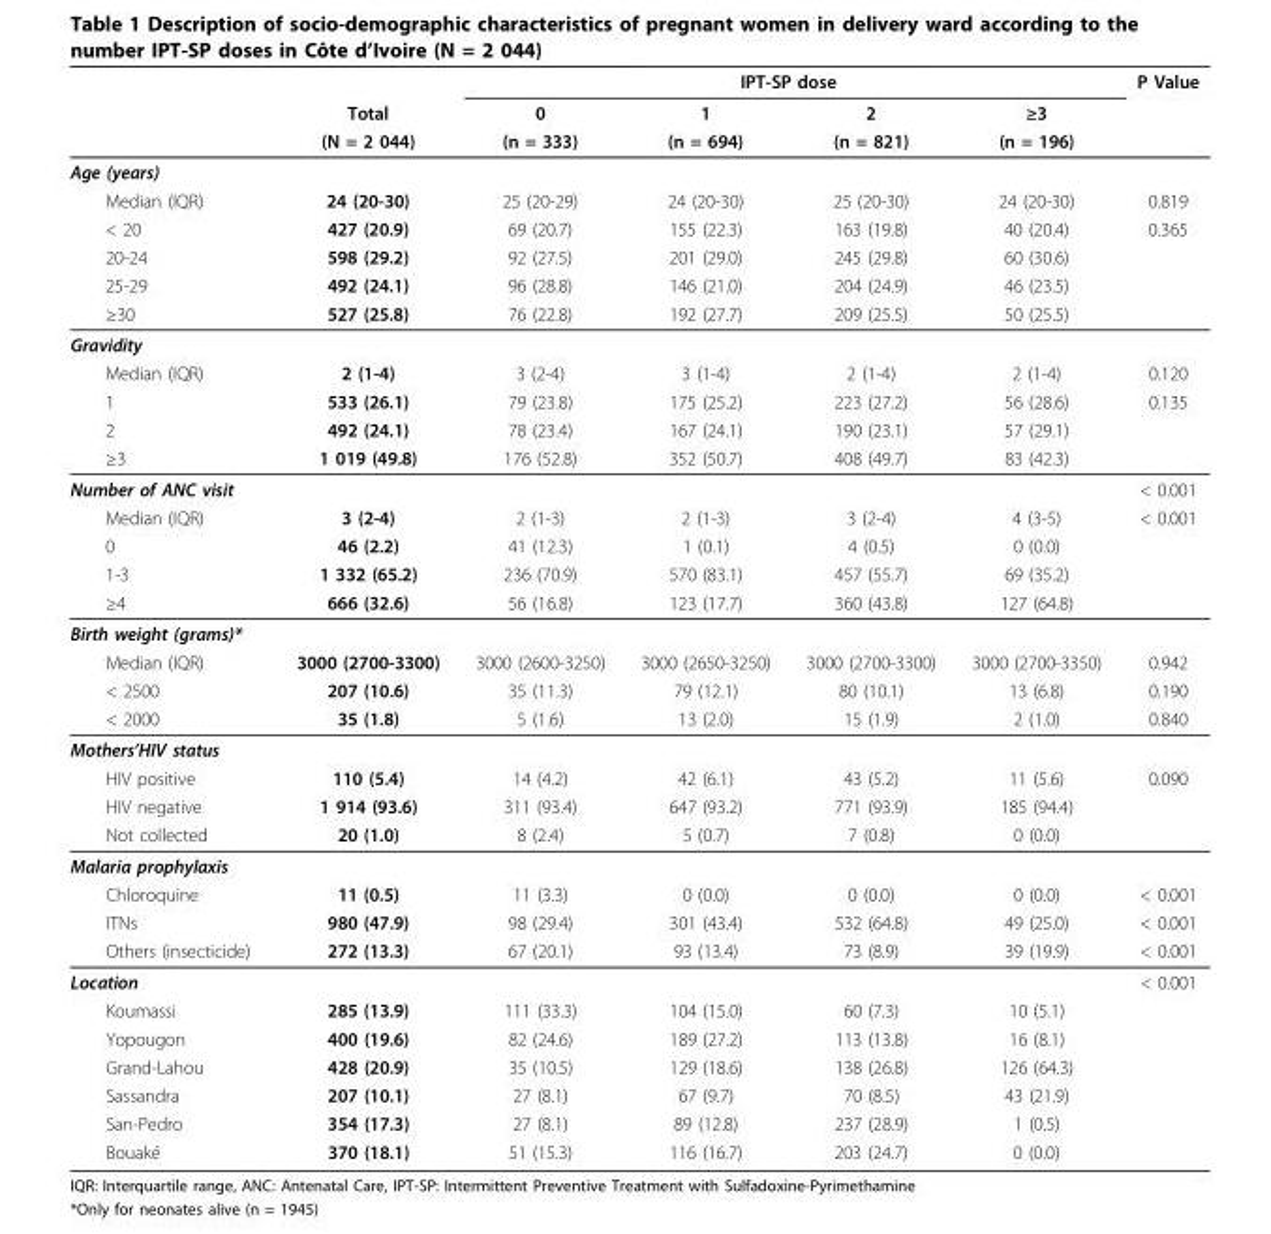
<table><thead><tr><td rowspan="3"></td><td rowspan="3">Total (N = 2 044)</td><td colspan="4">IPT-SP dose</td><td rowspan="3">P Value</td></tr><tr><td rowspan="2">0 (n = 333)</td><td rowspan="2">1 (n = 694)</td><td rowspan="2">2 (n = 821)</td><td rowspan="2">≥3 (n = 196)</td></tr><tr></tr></thead><tbody><tr><td colspan="7">Age (years)</td></tr><tr><td>Median (IQR)</td><td>24 (20-30)</td><td>25 (20-29)</td><td>24 (20-30)</td><td>25 (20-30)</td><td>24 (20-30)</td><td>0.819</td></tr><tr><td>&lt; 20</td><td>427 (20.9)</td><td>69 (20.7)</td><td>155 (22.3)</td><td>163 (19.8)</td><td>40 (20.4)</td><td>0.365</td></tr><tr><td>20-24</td><td>598 (29.2)</td><td>92 (27.5)</td><td>201 (29.0)</td><td>245 (29.8)</td><td>60 (30.6)</td><td></td></tr><tr><td>25-29</td><td>492 (24.1)</td><td>96 (28.8)</td><td>146 (21.0)</td><td>204 (24.9)</td><td>46 (23.5)</td><td></td></tr><tr><td>≥30</td><td>527 (25.8)</td><td>76 (22.8)</td><td>192 (27.7)</td><td>209 (25.5)</td><td>50 (25.5)</td><td></td></tr><tr><td colspan="7">Gravidity</td></tr><tr><td>Median (IQR)</td><td>2 (1-4)</td><td>3 (2-4)</td><td>3 (1-4)</td><td>2 (1-4)</td><td>2 (1-4)</td><td>0.120</td></tr><tr><td>1</td><td>533 (26.1)</td><td>79 (23.8)</td><td>175 (25.2)</td><td>223 (27.2)</td><td>56 (28.6)</td><td>0.135</td></tr><tr><td>2</td><td>492 (24.1)</td><td>78 (23.4)</td><td>167 (24.1)</td><td>190 (23.1)</td><td>57 (29.1)</td><td></td></tr><tr><td>≥3</td><td>1 019 (49.8)</td><td>176 (52.8)</td><td>352 (50.7)</td><td>408 (49.7)</td><td>83 (42.3)</td><td></td></tr><tr><td>Number of ANC visit</td><td></td><td></td><td></td><td></td><td></td><td>&lt; 0.001</td></tr><tr><td>Median (IQR)</td><td>3 (2-4)</td><td>2 (1-3)</td><td>2 (1-3)</td><td>3 (2-4)</td><td>4 (3-5)</td><td>&lt; 0.001</td></tr><tr><td>0</td><td>46 (2.2)</td><td>41 (12.3)</td><td>1 (0.1)</td><td>4 (0.5)</td><td>0 (0.0)</td><td></td></tr><tr><td>1-3</td><td>1 332 (65.2)</td><td>236 (70.9)</td><td>570 (83.1)</td><td>457 (55.7)</td><td>69 (35.2)</td><td></td></tr><tr><td>≥4</td><td>666 (32.6)</td><td>56 (16.8)</td><td>123 (17.7)</td><td>360 (43.8)</td><td>127 (64.8)</td><td></td></tr><tr><td colspan="7">Birth weight (grams)*</td></tr><tr><td>Median (IQR)</td><td>3000 (2700-3300)</td><td>3000 (2600-3250)</td><td>3000 (2650-3250)</td><td>3000 (2700-3300)</td><td>3000 (2700-3350)</td><td>0.942</td></tr><tr><td>&lt; 2500</td><td>207 (10.6)</td><td>35 (11.3)</td><td>79 (12.1)</td><td>80 (10.1)</td><td>13 (6.8)</td><td>0.190</td></tr><tr><td>&lt; 2000</td><td>35 (1.8)</td><td>5 (1.6)</td><td>13 (2.0)</td><td>15 (1.9)</td><td>2 (1.0)</td><td>0.840</td></tr><tr><td colspan="7">Mothers’HIV status</td></tr><tr><td>HIV positive</td><td>110 (5.4)</td><td>14 (4.2)</td><td>42 (6.1)</td><td>43 (5.2)</td><td>11 (5.6)</td><td>0.090</td></tr><tr><td>HIV negative</td><td>1 914 (93.6)</td><td>311 (93.4)</td><td>647 (93.2)</td><td>771 (93.9)</td><td>185 (94.4)</td><td></td></tr><tr><td>Not collected</td><td>20 (1.0)</td><td>8 (2.4)</td><td>5 (0.7)</td><td>7 (0.8)</td><td>0 (0.0)</td><td></td></tr><tr><td colspan="7">Malaria prophylaxis</td></tr><tr><td>Chloroquine</td><td>11 (0.5)</td><td>11 (3.3)</td><td>0 (0.0)</td><td>0 (0.0)</td><td>0 (0.0)</td><td>&lt; 0.001</td></tr><tr><td>ITNs</td><td>980 (47.9)</td><td>98 (29.4)</td><td>301 (43.4)</td><td>532 (64.8)</td><td>49 (25.0)</td><td>&lt; 0.001</td></tr><tr><td>Others (insecticide)</td><td>272 (13.3)</td><td>67 (20.1)</td><td>93 (13.4)</td><td>73 (8.9)</td><td>39 (19.9)</td><td>&lt; 0.001</td></tr><tr><td>Location</td><td></td><td></td><td></td><td></td><td></td><td>&lt; 0.001</td></tr><tr><td>Koumassi</td><td>285 (13.9)</td><td>111 (33.3)</td><td>104 (15.0)</td><td>60 (7.3)</td><td>10 (5.1)</td><td></td></tr><tr><td>Yopougon</td><td>400 (19.6)</td><td>82 (24.6)</td><td>189 (27.2)</td><td>113 (13.8)</td><td>16 (8.1)</td><td></td></tr><tr><td>Grand-Lahou</td><td>428 (20.9)</td><td>35 (10.5)</td><td>129 (18.6)</td><td>138 (26.8)</td><td>126 (64.3)</td><td></td></tr><tr><td>Sassandra</td><td>207 (10.1)</td><td>27 (8.1)</td><td>67 (9.7)</td><td>70 (8.5)</td><td>43 (21.9)</td><td></td></tr><tr><td>San-Pedro</td><td>354 (17.3)</td><td>27 (8.1)</td><td>89 (12.8)</td><td>237 (28.9)</td><td>1 (0.5)</td><td></td></tr><tr><td>Bouaké</td><td>370 (18.1)</td><td>51 (15.3)</td><td>116 (16.7)</td><td>203 (24.7)</td><td>0 (0.0)</td><td></td></tr></tbody></table>